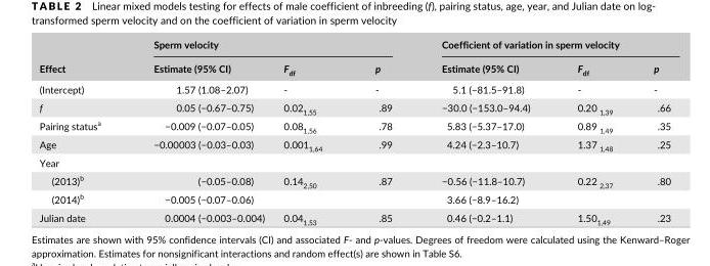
<table><thead><tr><td rowspan="2">Effect</td><td colspan="3">Sperm velocity</td><td colspan="3">Coefficient of variation in sperm velocity</td></tr><tr><td>Estimate (95% CI)</td><td>F<sub>df</sub></td><td>p</td><td>Estimate (95% CI)</td><td>F<sub>df</sub></td><td>p</td></tr></thead><tbody><tr><td>(Intercept)</td><td>1.57 (1.08–2.07)</td><td>-</td><td>-</td><td>5.1 (−81.5–91.8)</td><td>-</td><td>-</td></tr><tr><td>f</td><td>0.05 (−0.67–0.75)</td><td>0.02<sub>1,55</sub></td><td>.89</td><td>−30.0 (−153.0–94.4)</td><td>0.20 <sub>1,39</sub></td><td>.66</td></tr><tr><td>Pairing status<sup>a</sup></td><td>−0.009 (−0.07–0.05)</td><td>0.08<sub>1,56</sub></td><td>.78</td><td>5.83 (−5.37–17.0)</td><td>0.89 <sub>1,49</sub></td><td>.35</td></tr><tr><td>Age</td><td>−0.00003 (−0.03–0.03)</td><td>0.001<sub>1,64</sub></td><td>.99</td><td>4.24 (−2.3–10.7)</td><td>1.37 <sub>1,48</sub></td><td>.25</td></tr><tr><td colspan="7">Year</td></tr><tr><td>(2013)<sup>b</sup></td><td>(−0.05–0.08)</td><td>0.14<sub>2,50</sub></td><td>.87</td><td>−0.56 (−11.8–10.7)</td><td>0.22 <sub>2,37</sub></td><td>.80</td></tr><tr><td>(2014)<sup>b</sup></td><td>−0.005 (−0.07–0.06)</td><td></td><td></td><td>3.66 (−8.9–16.2)</td><td></td><td></td></tr><tr><td>Julian date</td><td>0.0004 (−0.003–0.004)</td><td>0.04<sub>1,53</sub></td><td>.85</td><td>0.46 (−0.2–1.1)</td><td>1.50<sub>1,49</sub></td><td>.23</td></tr></tbody></table>